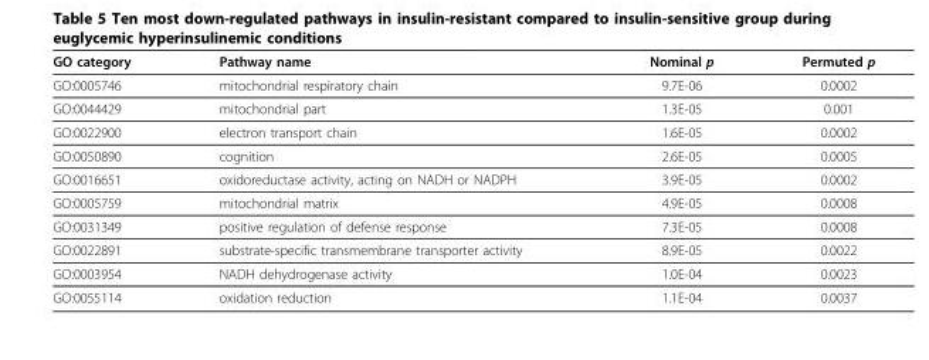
<table><thead><tr><td>GO category</td><td>Pathway name</td><td>Nominal p</td><td>Permuted p</td></tr></thead><tbody><tr><td>GO:0005746</td><td>mitochondrial respiratory chain</td><td>9.7E-06</td><td>0.0002</td></tr><tr><td>GO:0044429</td><td>mitochondrial part</td><td>1.3E-05</td><td>0.001</td></tr><tr><td>GO:0022900</td><td>electron transport chain</td><td>1.6E-05</td><td>0.0002</td></tr><tr><td>GO:0050890</td><td>cognition</td><td>2.6E-05</td><td>0.0005</td></tr><tr><td>GO:0016651</td><td>oxidoreductase activity, acting on NADH or NADPH</td><td>3.9E-05</td><td>0.0002</td></tr><tr><td>GO:0005759</td><td>mitochondrial matrix</td><td>4.9E-05</td><td>0.0008</td></tr><tr><td>GO:0031349</td><td>positive regulation of defense response</td><td>7.3E-05</td><td>0.0008</td></tr><tr><td>GO:0022891</td><td>substrate-specific transmembrane transporter activity</td><td>8.9E-05</td><td>0.0022</td></tr><tr><td>GO:0003954</td><td>NADH dehydrogenase activity</td><td>1.0E-04</td><td>0.0023</td></tr><tr><td>GO:0055114</td><td>oxidation reduction</td><td>1.1E-04</td><td>0.0037</td></tr></tbody></table>